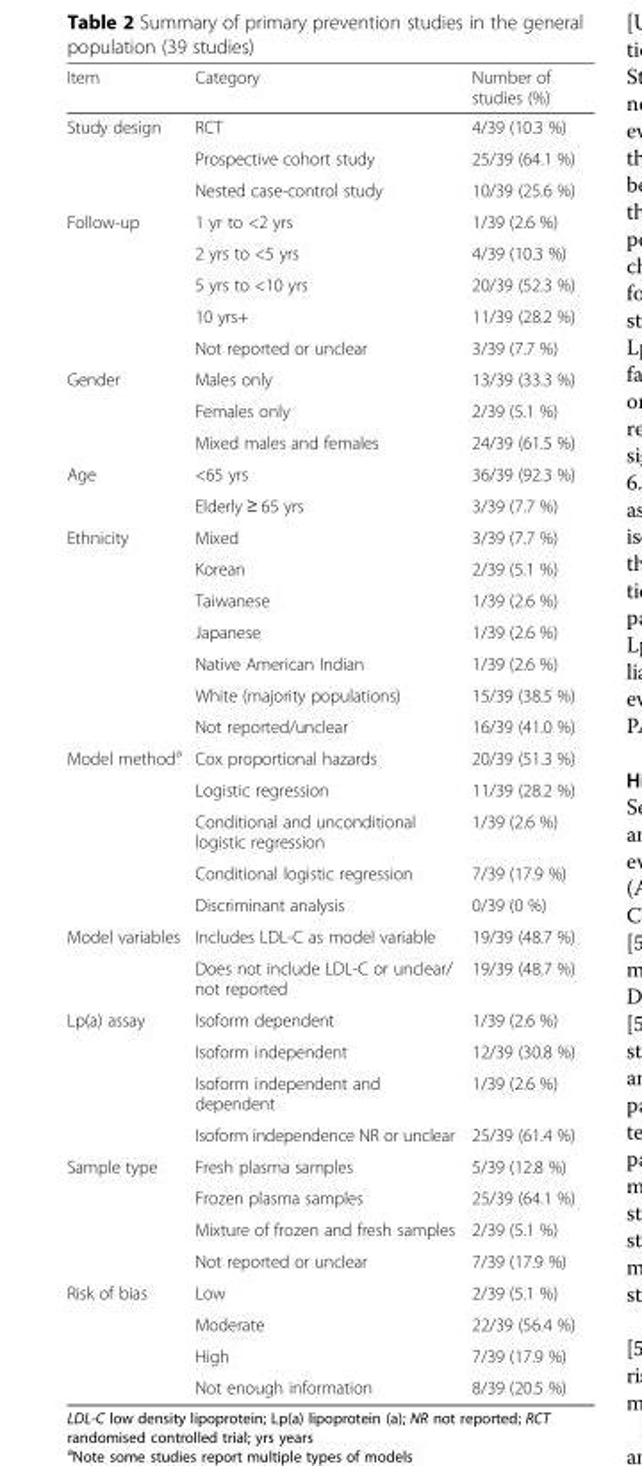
<table><thead><tr><td>Item</td><td>Category</td><td>Number of studies (%)</td></tr></thead><tbody><tr><td rowspan="3">Study design</td><td>RCT</td><td>4/39 (10.3 %)</td></tr><tr><td>Prospective cohort study</td><td>25/39 (64.1 %)</td></tr><tr><td>Nested case-control study</td><td>10/39 (25.6 %)</td></tr><tr><td rowspan="5">Follow-up</td><td>1 yr to &lt;2 yrs</td><td>1/39 (2.6 %)</td></tr><tr><td>2 yrs to &lt;5 yrs</td><td>4/39 (10.3 %)</td></tr><tr><td>5 yrs to &lt;10 yrs</td><td>20/39 (52.3 %)</td></tr><tr><td>10 yrs+</td><td>11/39 (28.2 %)</td></tr><tr><td>Not reported or unclear</td><td>3/39 (7.7 %)</td></tr><tr><td rowspan="3">Gender</td><td>Males only</td><td>13/39 (33.3 %)</td></tr><tr><td>Females only</td><td>2/39 (5.1 %)</td></tr><tr><td>Mixed males and females</td><td>24/39 (61.5 %)</td></tr><tr><td rowspan="2">Age</td><td>&lt;65 yrs</td><td>36/39 (92.3 %)</td></tr><tr><td>Elderly ≥ 65 yrs</td><td>3/39 (7.7 %)</td></tr><tr><td rowspan="7">Ethnicity</td><td>Mixed</td><td>3/39 (7.7 %)</td></tr><tr><td>Korean</td><td>2/39 (5.1 %)</td></tr><tr><td>Taiwanese</td><td>1/39 (2.6 %)</td></tr><tr><td>Japanese</td><td>1/39 (2.6 %)</td></tr><tr><td>Native American Indian</td><td>1/39 (2.6 %)</td></tr><tr><td>White (majority populations)</td><td>15/39 (38.5 %)</td></tr><tr><td>Not reported/unclear</td><td>16/39 (41.0 %)</td></tr><tr><td rowspan="5">Model method<sup>a</sup></td><td>Cox proportional hazards</td><td>20/39 (51.3 %)</td></tr><tr><td>Logistic regression</td><td>11/39 (28.2 %)</td></tr><tr><td>Conditional and unconditional logistic regression</td><td>1/39 (2.6 %)</td></tr><tr><td>Conditional logistic regression</td><td>7/39 (17.9 %)</td></tr><tr><td>Discriminant analysis</td><td>0/39 (0 %)</td></tr><tr><td rowspan="2">Model variables</td><td>Includes LDL-C as model variable</td><td>19/39 (48.7 %)</td></tr><tr><td>Does not include LDL-C or unclear/ not reported</td><td>19/39 (48.7 %)</td></tr><tr><td rowspan="4">Lp(a) assay</td><td>Isoform dependent</td><td>1/39 (2.6 %)</td></tr><tr><td>Isoform independent</td><td>12/39 (30.8 %)</td></tr><tr><td>Isoform independent and dependent</td><td>1/39 (2.6 %)</td></tr><tr><td>Isoform independence NR or unclear</td><td>25/39 (61.4 %)</td></tr><tr><td rowspan="4">Sample type</td><td>Fresh plasma samples</td><td>5/39 (12.8 %)</td></tr><tr><td>Frozen plasma samples</td><td>25/39 (64.1 %)</td></tr><tr><td>Mixture of frozen and fresh samples</td><td>2/39 (5.1 %)</td></tr><tr><td>Not reported or unclear</td><td>7/39 (17.9 %)</td></tr><tr><td rowspan="4">Risk of bias</td><td>Low</td><td>2/39 (5.1 %)</td></tr><tr><td>Moderate</td><td>22/39 (56.4 %)</td></tr><tr><td>High</td><td>7/39 (17.9 %)</td></tr><tr><td>Not enough information</td><td>8/39 (20.5 %)</td></tr></tbody></table>